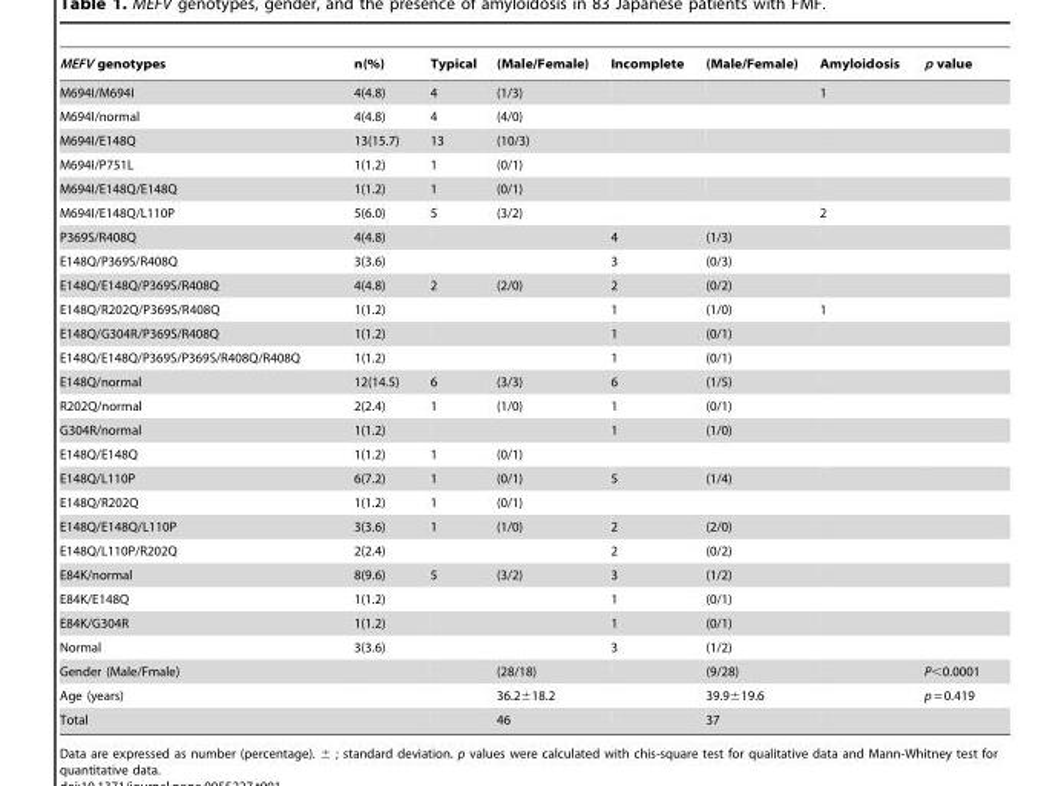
<table><thead><tr><td>MEFV genotypes</td><td>n(%)</td><td>Typical</td><td>(Male/Female)</td><td>Incomplete</td><td>(Male/Female)</td><td>Amyloidosis</td><td>p value</td></tr></thead><tbody><tr><td>M694I/M694I</td><td>4(4.8)</td><td>4</td><td>(1/3)</td><td></td><td></td><td>1</td><td></td></tr><tr><td>M694I/normal</td><td>4(4.8)</td><td>4</td><td>(4/0)</td><td></td><td></td><td></td><td></td></tr><tr><td>M694I/E148Q</td><td>13(15.7)</td><td>13</td><td>(10/3)</td><td></td><td></td><td></td><td></td></tr><tr><td>M694I/P751L</td><td>1(1.2)</td><td>1</td><td>(0/1)</td><td></td><td></td><td></td><td></td></tr><tr><td>M694I/E148Q/E148Q</td><td>1(1.2)</td><td>1</td><td>(0/1)</td><td></td><td></td><td></td><td></td></tr><tr><td>M694I/E148Q/L110P</td><td>5(6.0)</td><td>5</td><td>(3/2)</td><td></td><td></td><td>2</td><td></td></tr><tr><td>P369S/R408Q</td><td>4(4.8)</td><td></td><td></td><td>4</td><td>(1/3)</td><td></td><td></td></tr><tr><td>E148Q/P369S/R408Q</td><td>3(3.6)</td><td></td><td></td><td>3</td><td>(0/3)</td><td></td><td></td></tr><tr><td>E148Q/E148Q/P369S/R408Q</td><td>4(4.8)</td><td>2</td><td>(2/0)</td><td>2</td><td>(0/2)</td><td></td><td></td></tr><tr><td>E148Q/R202Q/P369S/R408Q</td><td>1(1.2)</td><td></td><td></td><td>1</td><td>(1/0)</td><td>1</td><td></td></tr><tr><td>E148Q/G304R/P369S/R408Q</td><td>1(1.2)</td><td></td><td></td><td>1</td><td>(0/1)</td><td></td><td></td></tr><tr><td>E148Q/E148Q/P369S/P369S/R408Q/R408Q</td><td>1(1.2)</td><td></td><td></td><td>1</td><td>(0/1)</td><td></td><td></td></tr><tr><td>E148Q/normal</td><td>12(14.5)</td><td>6</td><td>(3/3)</td><td>6</td><td>(1/5)</td><td></td><td></td></tr><tr><td>R202Q/normal</td><td>2(2.4)</td><td>1</td><td>(1/0)</td><td>1</td><td>(0/1)</td><td></td><td></td></tr><tr><td>G304R/normal</td><td>1(1.2)</td><td></td><td></td><td>1</td><td>(1/0)</td><td></td><td></td></tr><tr><td>E148Q/E148Q</td><td>1(1.2)</td><td>1</td><td>(0/1)</td><td></td><td></td><td></td><td></td></tr><tr><td>E148Q/L110P</td><td>6(7.2)</td><td>1</td><td>(0/1)</td><td>5</td><td>(1/4)</td><td></td><td></td></tr><tr><td>E148Q/R202Q</td><td>1(1.2)</td><td>1</td><td>(0/1)</td><td></td><td></td><td></td><td></td></tr><tr><td>E148Q/E148Q/L110P</td><td>3(3.6)</td><td>1</td><td>(1/0)</td><td>2</td><td>(2/0)</td><td></td><td></td></tr><tr><td>E148Q/L110P/R202Q</td><td>2(2.4)</td><td></td><td></td><td>2</td><td>(0/2)</td><td></td><td></td></tr><tr><td>E84K/normal</td><td>8(9.6)</td><td>5</td><td>(3/2)</td><td>3</td><td>(1/2)</td><td></td><td></td></tr><tr><td>E84K/E148Q</td><td>1(1.2)</td><td></td><td></td><td>1</td><td>(0/1)</td><td></td><td></td></tr><tr><td>E84K/G304R</td><td>1(1.2)</td><td></td><td></td><td>1</td><td>(0/1)</td><td></td><td></td></tr><tr><td>Normal</td><td>3(3.6)</td><td></td><td></td><td>3</td><td>(1/2)</td><td></td><td></td></tr><tr><td>Gender (Male/Fmale)</td><td></td><td></td><td>(28/18)</td><td></td><td>(9/28)</td><td></td><td>P&lt;0.0001</td></tr><tr><td>Age (years)</td><td></td><td></td><td>36.2±18.2</td><td></td><td>39.9±19.6</td><td></td><td>p = 0.419</td></tr><tr><td>Total</td><td></td><td></td><td>46</td><td></td><td>37</td><td></td><td></td></tr></tbody></table>